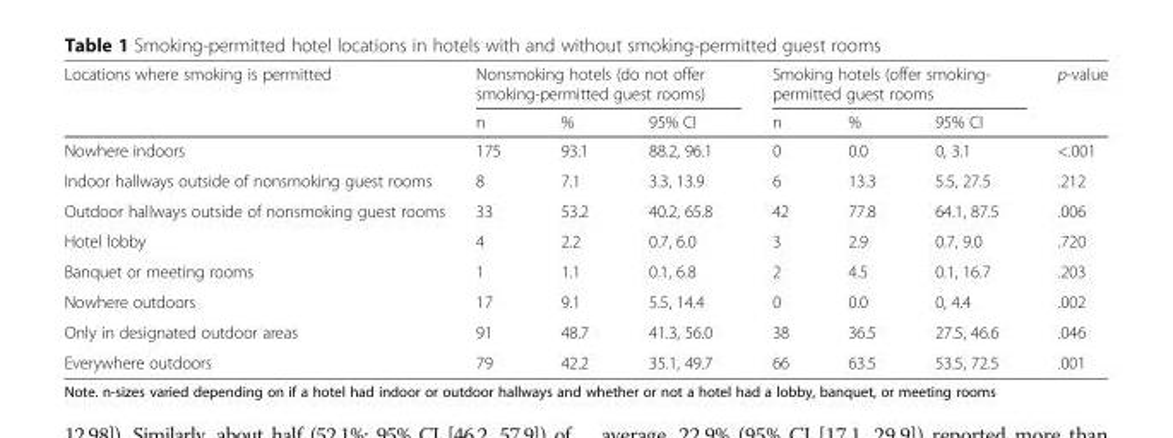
<table><thead><tr><td rowspan="2">Locations where smoking is permitted</td><td colspan="3">Nonsmoking hotels (do not offer smoking-permitted guest rooms)</td><td colspan="3">Smoking hotels (offer smoking- permitted guest rooms</td><td rowspan="2">p-value</td></tr><tr><td>n</td><td>%</td><td>95% CI</td><td>n</td><td>%</td><td>95% CI</td></tr></thead><tbody><tr><td>Nowhere indoors</td><td>175</td><td>93.1</td><td>88.2, 96.1</td><td>0</td><td>0.0</td><td>0, 3.1</td><td>&lt;.001</td></tr><tr><td>Indoor hallways outside of nonsmoking guest rooms</td><td>8</td><td>7.1</td><td>3.3, 13.9</td><td>6</td><td>13.3</td><td>5.5, 27.5</td><td>.212</td></tr><tr><td>Outdoor hallways outside of nonsmoking guest rooms</td><td>33</td><td>53.2</td><td>40.2, 65.8</td><td>42</td><td>77.8</td><td>64.1, 87.5</td><td>.006</td></tr><tr><td>Hotel lobby</td><td>4</td><td>2.2</td><td>0.7, 6.0</td><td>3</td><td>2.9</td><td>0.7, 9.0</td><td>.720</td></tr><tr><td>Banquet or meeting rooms</td><td>1</td><td>1.1</td><td>0.1, 6.8</td><td>2</td><td>4.5</td><td>0.1, 16.7</td><td>.203</td></tr><tr><td>Nowhere outdoors</td><td>17</td><td>9.1</td><td>5.5, 14.4</td><td>0</td><td>0.0</td><td>0, 4.4</td><td>.002</td></tr><tr><td>Only in designated outdoor areas</td><td>91</td><td>48.7</td><td>41.3, 56.0</td><td>38</td><td>36.5</td><td>27.5, 46.6</td><td>.046</td></tr><tr><td>Everywhere outdoors</td><td>79</td><td>42.2</td><td>35.1, 49.7</td><td>66</td><td>63.5</td><td>53.5, 72.5</td><td>.001</td></tr></tbody></table>